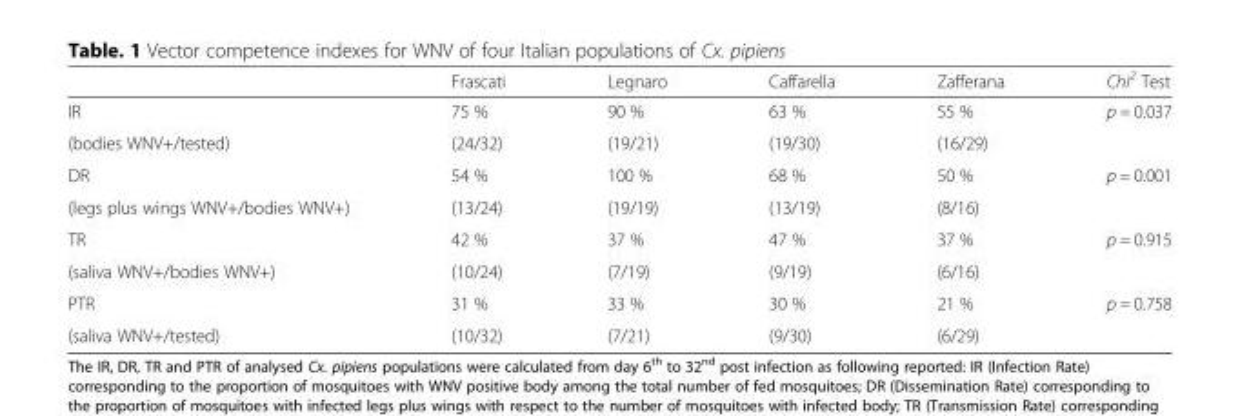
<table><thead><tr><td></td><td>Frascati</td><td>Legnaro</td><td>Caffarella</td><td>Zafferana</td><td>Chi<sup>2</sup> Test</td></tr></thead><tbody><tr><td>IR</td><td>75 %</td><td>90 %</td><td>63 %</td><td>55 %</td><td>p = 0.037</td></tr><tr><td>(bodies WNV+/tested)</td><td>(24/32)</td><td>(19/21)</td><td>(19/30)</td><td>(16/29)</td><td></td></tr><tr><td>DR</td><td>54 %</td><td>100 %</td><td>68 %</td><td>50 %</td><td>p = 0.001</td></tr><tr><td>(legs plus wings WNV+/bodies WNV+)</td><td>(13/24)</td><td>(19/19)</td><td>(13/19)</td><td>(8/16)</td><td></td></tr><tr><td>TR</td><td>42 %</td><td>37 %</td><td>47 %</td><td>37 %</td><td>p = 0.915</td></tr><tr><td>(saliva WNV+/bodies WNV+)</td><td>(10/24)</td><td>(7/19)</td><td>(9/19)</td><td>(6/16)</td><td></td></tr><tr><td>PTR</td><td>31 %</td><td>33 %</td><td>30 %</td><td>21 %</td><td>p = 0.758</td></tr><tr><td>(saliva WNV+/tested)</td><td>(10/32)</td><td>(7/21)</td><td>(9/30)</td><td>(6/29)</td><td></td></tr></tbody></table>